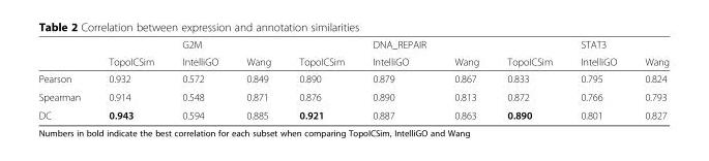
<table><thead><tr><td rowspan="2"></td><td rowspan="2">TopoICSim</td><td rowspan="2">G2M IntelliGO</td><td rowspan="2">Wang</td><td rowspan="2">TopoICSim</td><td rowspan="2">DNA_REPAIR IntelliGO</td><td rowspan="2">Wang</td><td rowspan="2">TopoICSim</td><td rowspan="2">STAT3 IntelliGO</td><td rowspan="2">Wang</td></tr><tr></tr></thead><tbody><tr><td>Pearson</td><td>0.932</td><td>0.572</td><td>0.849</td><td>0.890</td><td>0.879</td><td>0.867</td><td>0.833</td><td>0.795</td><td>0.824</td></tr><tr><td>Spearman</td><td>0.914</td><td>0.548</td><td>0.871</td><td>0.876</td><td>0.890</td><td>0.813</td><td>0.872</td><td>0.766</td><td>0.793</td></tr><tr><td>DC</td><td>0.943</td><td>0.594</td><td>0.885</td><td>0.921</td><td>0.887</td><td>0.863</td><td>0.890</td><td>0.801</td><td>0.827</td></tr></tbody></table>